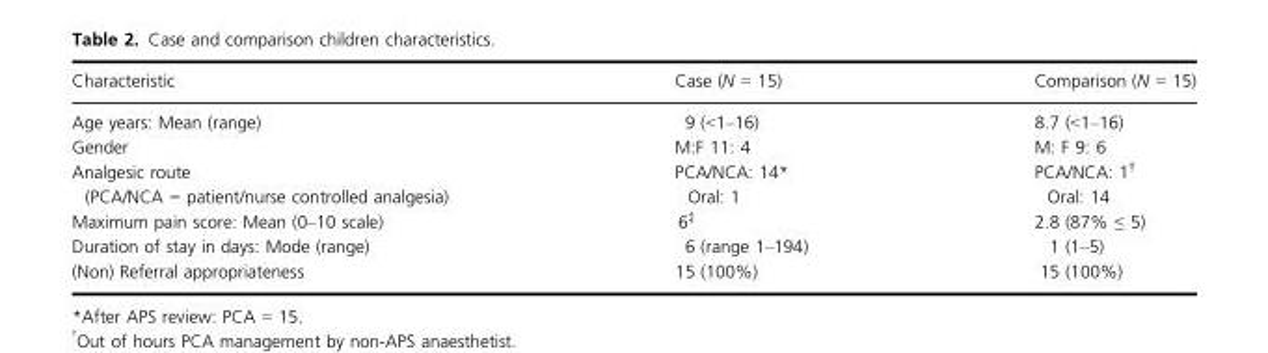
<table><thead><tr><td>Characteristic</td><td>Case (N = 15)</td><td>Comparison (N = 15)</td></tr></thead><tbody><tr><td>Age years: Mean (range)</td><td>9 (&lt;1–16)</td><td>8.7 (&lt;1–16)</td></tr><tr><td>Gender</td><td>M:F 11: 4</td><td>M: F 9: 6</td></tr><tr><td>Analgesic route (PCA/NCA = patient/nurse controlled analgesia)</td><td>PCA/NCA: 14* Oral: 1</td><td>PCA/NCA: 1† Oral: 14</td></tr><tr><td>Maximum pain score: Mean (0–10 scale)</td><td>6‡</td><td>2.8 (87% ≤ 5)</td></tr><tr><td>Duration of stay in days: Mode (range)</td><td>6 (range 1–194)</td><td>1 (1–5)</td></tr><tr><td>(Non) Referral appropriateness</td><td>15 (100%)</td><td>15 (100%)</td></tr></tbody></table>